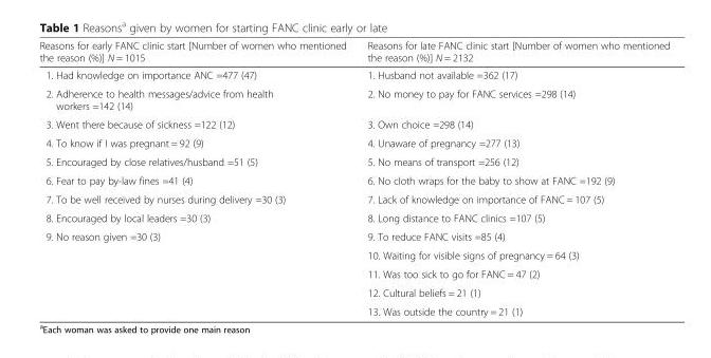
<table><thead><tr><td>Reasons for early FANC clinic start [Number of women who mentioned the reason (%)] N = 1015</td><td>Reasons for late FANC clinic start [Number of women who mentioned the reason (%)] N = 2132</td></tr></thead><tbody><tr><td>1. Had knowledge on importance ANC =477 (47)</td><td>1. Husband not available =362 (17)</td></tr><tr><td>2. Adherence to health messages/advice from health workers =142 (14)</td><td>2. No money to pay for FANC services =298 (14)</td></tr><tr><td>3. Went there because of sickness =122 (12)</td><td>3. Own choice =298 (14)</td></tr><tr><td>4. To know if I was pregnant = 92 (9)</td><td>4. Unaware of pregnancy =277 (13)</td></tr><tr><td>5. Encouraged by close relatives/husband =51 (5)</td><td>5. No means of transport =256 (12)</td></tr><tr><td>6. Fear to pay by-law fines =41 (4)</td><td>6. No cloth wraps for the baby to show at FANC =192 (9)</td></tr><tr><td>7. To be well received by nurses during delivery =30 (3)</td><td>7. Lack of knowledge on importance of FANC = 107 (5)</td></tr><tr><td>8. Encouraged by local leaders =30 (3)</td><td>8. Long distance to FANC clinics =107 (5)</td></tr><tr><td rowspan="5">9. No reason given =30 (3)</td><td>9. To reduce FANC visits =85 (4)</td></tr><tr><td>10. Waiting for visible signs of pregnancy = 64 (3)</td></tr><tr><td>11. Was too sick to go for FANC = 47 (2)</td></tr><tr><td>12. Cultural beliefs = 21 (1)</td></tr><tr><td>13. Was outside the country = 21 (1)</td></tr></tbody></table>